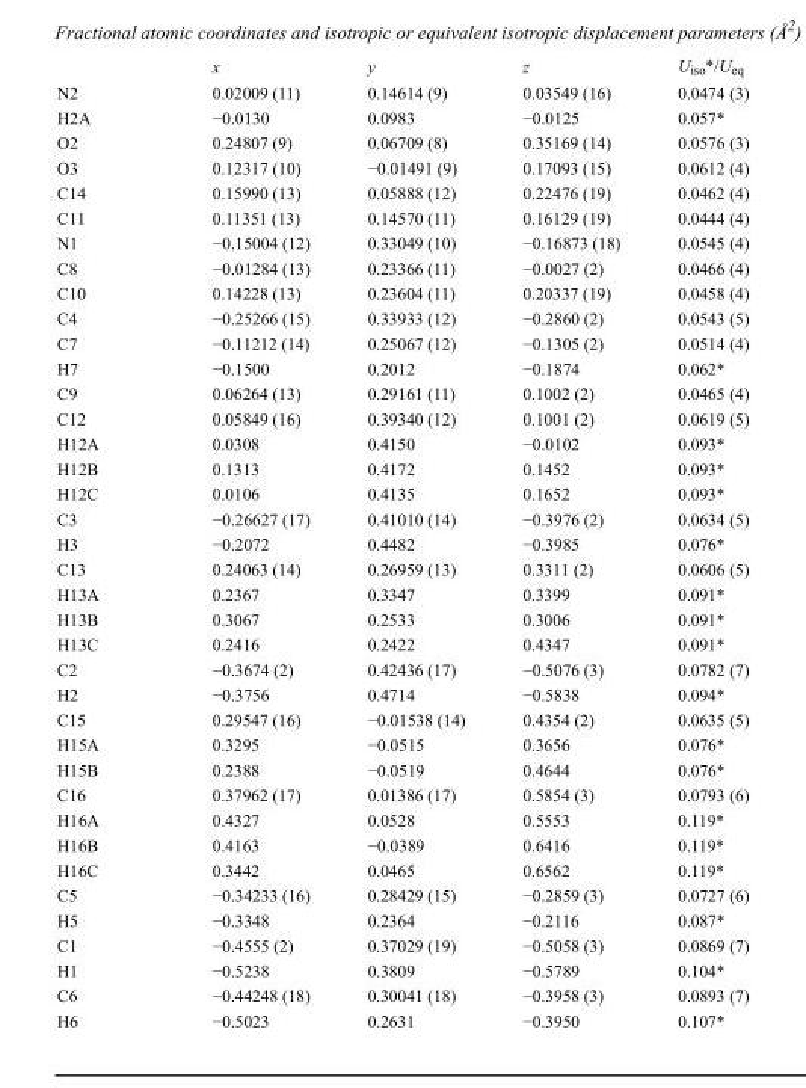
<table><thead><tr><td></td><td>x</td><td>y</td><td>z</td><td>U<sub>iso</sub>*/U<sub>eq</sub></td></tr></thead><tbody><tr><td>N2</td><td>0.02009 (11)</td><td>0.14614 (9)</td><td>0.03549 (16)</td><td>0.0474 (3)</td></tr><tr><td>H2A</td><td>−0.0130</td><td>0.0983</td><td>−0.0125</td><td>0.057*</td></tr><tr><td>O2</td><td>0.24807 (9)</td><td>0.06709 (8)</td><td>0.35169 (14)</td><td>0.0576 (3)</td></tr><tr><td>O3</td><td>0.12317 (10)</td><td>−0.01491 (9)</td><td>0.17093 (15)</td><td>0.0612 (4)</td></tr><tr><td>C14</td><td>0.15990 (13)</td><td>0.05888 (12)</td><td>0.22476 (19)</td><td>0.0462 (4)</td></tr><tr><td>C11</td><td>0.11351 (13)</td><td>0.14570 (11)</td><td>0.16129 (19)</td><td>0.0444 (4)</td></tr><tr><td>N1</td><td>−0.15004 (12)</td><td>0.33049 (10)</td><td>−0.16873 (18)</td><td>0.0545 (4)</td></tr><tr><td>C8</td><td>−0.01284 (13)</td><td>0.23366 (11)</td><td>−0.0027 (2)</td><td>0.0466 (4)</td></tr><tr><td>C10</td><td>0.14228 (13)</td><td>0.23604 (11)</td><td>0.20337 (19)</td><td>0.0458 (4)</td></tr><tr><td>C4</td><td>−0.25266 (15)</td><td>0.33933 (12)</td><td>−0.2860 (2)</td><td>0.0543 (5)</td></tr><tr><td>C7</td><td>−0.11212 (14)</td><td>0.25067 (12)</td><td>−0.1305 (2)</td><td>0.0514 (4)</td></tr><tr><td>H7</td><td>−0.1500</td><td>0.2012</td><td>−0.1874</td><td>0.062*</td></tr><tr><td>C9</td><td>0.06264 (13)</td><td>0.29161 (11)</td><td>0.1002 (2)</td><td>0.0465 (4)</td></tr><tr><td>C12</td><td>0.05849 (16)</td><td>0.39340 (12)</td><td>0.1001 (2)</td><td>0.0619 (5)</td></tr><tr><td>H12A</td><td>0.0308</td><td>0.4150</td><td>−0.0102</td><td>0.093*</td></tr><tr><td>H12B</td><td>0.1313</td><td>0.4172</td><td>0.1452</td><td>0.093*</td></tr><tr><td>H12C</td><td>0.0106</td><td>0.4135</td><td>0.1652</td><td>0.093*</td></tr><tr><td>C3</td><td>−0.26627 (17)</td><td>0.41010 (14)</td><td>−0.3976 (2)</td><td>0.0634 (5)</td></tr><tr><td>H3</td><td>−0.2072</td><td>0.4482</td><td>−0.3985</td><td>0.076*</td></tr><tr><td>C13</td><td>0.24063 (14)</td><td>0.26959 (13)</td><td>0.3311 (2)</td><td>0.0606 (5)</td></tr><tr><td>H13A</td><td>0.2367</td><td>0.3347</td><td>0.3399</td><td>0.091*</td></tr><tr><td>H13B</td><td>0.3067</td><td>0.2533</td><td>0.3006</td><td>0.091*</td></tr><tr><td>H13C</td><td>0.2416</td><td>0.2422</td><td>0.4347</td><td>0.091*</td></tr><tr><td>C2</td><td>−0.3674 (2)</td><td>0.42436 (17)</td><td>−0.5076 (3)</td><td>0.0782 (7)</td></tr><tr><td>H2</td><td>−0.3756</td><td>0.4714</td><td>−0.5838</td><td>0.094*</td></tr><tr><td>C15</td><td>0.29547 (16)</td><td>−0.01538 (14)</td><td>0.4354 (2)</td><td>0.0635 (5)</td></tr><tr><td>H15A</td><td>0.3295</td><td>−0.0515</td><td>0.3656</td><td>0.076*</td></tr><tr><td>H15B</td><td>0.2388</td><td>−0.0519</td><td>0.4644</td><td>0.076*</td></tr><tr><td>C16</td><td>0.37962 (17)</td><td>0.01386 (17)</td><td>0.5854 (3)</td><td>0.0793 (6)</td></tr><tr><td>H16A</td><td>0.4327</td><td>0.0528</td><td>0.5553</td><td>0.119*</td></tr><tr><td>H16B</td><td>0.4163</td><td>−0.0389</td><td>0.6416</td><td>0.119*</td></tr><tr><td>H16C</td><td>0.3442</td><td>0.0465</td><td>0.6562</td><td>0.119*</td></tr><tr><td>C5</td><td>−0.34233 (16)</td><td>0.28429 (15)</td><td>−0.2859 (3)</td><td>0.0727 (6)</td></tr><tr><td>H5</td><td>−0.3348</td><td>0.2364</td><td>−0.2116</td><td>0.087*</td></tr><tr><td>C1</td><td>−0.4555 (2)</td><td>0.37029 (19)</td><td>−0.5058 (3)</td><td>0.0869 (7)</td></tr><tr><td>H1</td><td>−0.5238</td><td>0.3809</td><td>−0.5789</td><td>0.104*</td></tr><tr><td>C6</td><td>−0.44248 (18)</td><td>0.30041 (18)</td><td>−0.3958 (3)</td><td>0.0893 (7)</td></tr><tr><td>H6</td><td>−0.5023</td><td>0.2631</td><td>−0.3950</td><td>0.107*</td></tr></tbody></table>